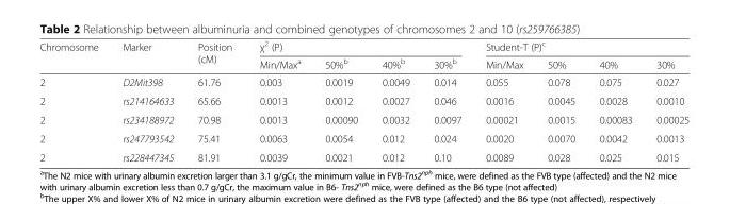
<table><thead><tr><td rowspan="2">Chromosome</td><td rowspan="2">Marker</td><td rowspan="2">Position (cM)</td><td colspan="4">χ<sup>2</sup> (P)</td><td colspan="4">Student-T (P)<sup>c</sup></td></tr><tr><td>Min/Max<sup>a</sup></td><td>50%<sup>b</sup></td><td>40%<sup>b</sup></td><td>30%<sup>b</sup></td><td>Min/Max</td><td>50%</td><td>40%</td><td>30%</td></tr></thead><tbody><tr><td>2</td><td>D2Mit398</td><td>61.76</td><td>0.003</td><td>0.0019</td><td>0.0049</td><td>0.014</td><td>0.055</td><td>0.078</td><td>0.075</td><td>0.027</td></tr><tr><td>2</td><td>rs214164633</td><td>65.66</td><td>0.0013</td><td>0.0012</td><td>0.0027</td><td>0.046</td><td>0.0016</td><td>0.0045</td><td>0.0028</td><td>0.0010</td></tr><tr><td>2</td><td>rs234188972</td><td>70.98</td><td>0.0013</td><td>0.00090</td><td>0.0032</td><td>0.0097</td><td>0.00021</td><td>0.0015</td><td>0.00083</td><td>0.00025</td></tr><tr><td>2</td><td>rs247793542</td><td>75.41</td><td>0.0063</td><td>0.0054</td><td>0.012</td><td>0.024</td><td>0.0020</td><td>0.0070</td><td>0.0042</td><td>0.0013</td></tr><tr><td>2</td><td>rs228447345</td><td>81.91</td><td>0.0039</td><td>0.0021</td><td>0.012</td><td>0.10</td><td>0.0089</td><td>0.028</td><td>0.025</td><td>0.015</td></tr></tbody></table>